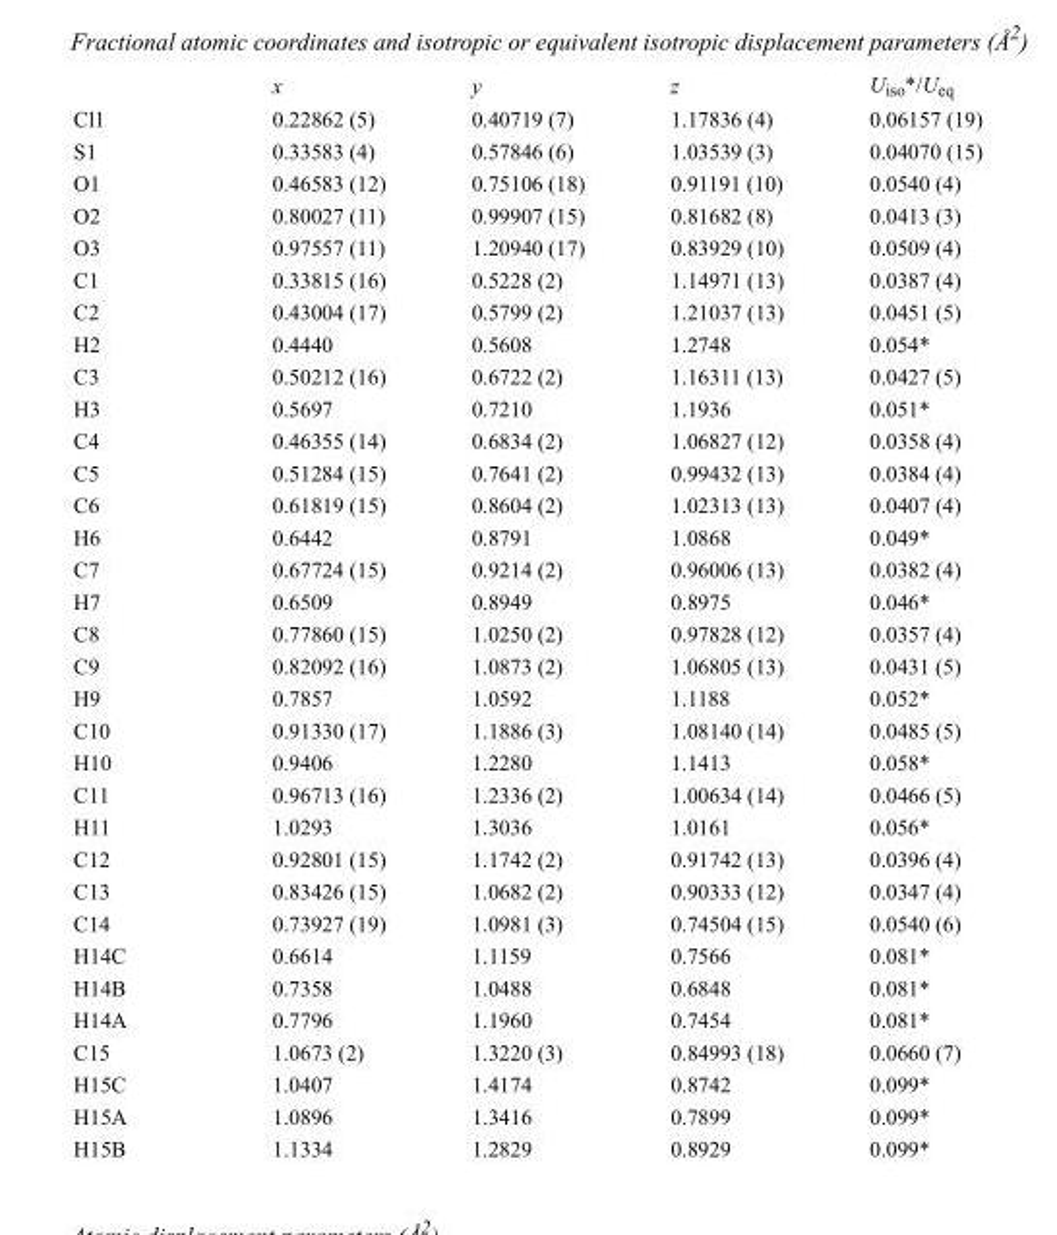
<table><thead><tr><td></td><td>x</td><td>y</td><td>z</td><td>U<sub>iso</sub>*/U<sub>eq</sub></td></tr></thead><tbody><tr><td>Cl1</td><td>0.22862 (5)</td><td>0.40719 (7)</td><td>1.17836 (4)</td><td>0.06157 (19)</td></tr><tr><td>S1</td><td>0.33583 (4)</td><td>0.57846 (6)</td><td>1.03539 (3)</td><td>0.04070 (15)</td></tr><tr><td>O1</td><td>0.46583 (12)</td><td>0.75106 (18)</td><td>0.91191 (10)</td><td>0.0540 (4)</td></tr><tr><td>O2</td><td>0.80027 (11)</td><td>0.99907 (15)</td><td>0.81682 (8)</td><td>0.0413 (3)</td></tr><tr><td>O3</td><td>0.97557 (11)</td><td>1.20940 (17)</td><td>0.83929 (10)</td><td>0.0509 (4)</td></tr><tr><td>C1</td><td>0.33815 (16)</td><td>0.5228 (2)</td><td>1.14971 (13)</td><td>0.0387 (4)</td></tr><tr><td>C2</td><td>0.43004 (17)</td><td>0.5799 (2)</td><td>1.21037 (13)</td><td>0.0451 (5)</td></tr><tr><td>H2</td><td>0.4440</td><td>0.5608</td><td>1.2748</td><td>0.054*</td></tr><tr><td>C3</td><td>0.50212 (16)</td><td>0.6722 (2)</td><td>1.16311 (13)</td><td>0.0427 (5)</td></tr><tr><td>H3</td><td>0.5697</td><td>0.7210</td><td>1.1936</td><td>0.051*</td></tr><tr><td>C4</td><td>0.46355 (14)</td><td>0.6834 (2)</td><td>1.06827 (12)</td><td>0.0358 (4)</td></tr><tr><td>C5</td><td>0.51284 (15)</td><td>0.7641 (2)</td><td>0.99432 (13)</td><td>0.0384 (4)</td></tr><tr><td>C6</td><td>0.61819 (15)</td><td>0.8604 (2)</td><td>1.02313 (13)</td><td>0.0407 (4)</td></tr><tr><td>H6</td><td>0.6442</td><td>0.8791</td><td>1.0868</td><td>0.049*</td></tr><tr><td>C7</td><td>0.67724 (15)</td><td>0.9214 (2)</td><td>0.96006 (13)</td><td>0.0382 (4)</td></tr><tr><td>H7</td><td>0.6509</td><td>0.8949</td><td>0.8975</td><td>0.046*</td></tr><tr><td>C8</td><td>0.77860 (15)</td><td>1.0250 (2)</td><td>0.97828 (12)</td><td>0.0357 (4)</td></tr><tr><td>C9</td><td>0.82092 (16)</td><td>1.0873 (2)</td><td>1.06805 (13)</td><td>0.0431 (5)</td></tr><tr><td>H9</td><td>0.7857</td><td>1.0592</td><td>1.1188</td><td>0.052*</td></tr><tr><td>C10</td><td>0.91330 (17)</td><td>1.1886 (3)</td><td>1.08140 (14)</td><td>0.0485 (5)</td></tr><tr><td>H10</td><td>0.9406</td><td>1.2280</td><td>1.1413</td><td>0.058*</td></tr><tr><td>C11</td><td>0.96713 (16)</td><td>1.2336 (2)</td><td>1.00634 (14)</td><td>0.0466 (5)</td></tr><tr><td>H11</td><td>1.0293</td><td>1.3036</td><td>1.0161</td><td>0.056*</td></tr><tr><td>C12</td><td>0.92801 (15)</td><td>1.1742 (2)</td><td>0.91742 (13)</td><td>0.0396 (4)</td></tr><tr><td>C13</td><td>0.83426 (15)</td><td>1.0682 (2)</td><td>0.90333 (12)</td><td>0.0347 (4)</td></tr><tr><td>C14</td><td>0.73927 (19)</td><td>1.0981 (3)</td><td>0.74504 (15)</td><td>0.0540 (6)</td></tr><tr><td>H14C</td><td>0.6614</td><td>1.1159</td><td>0.7566</td><td>0.081*</td></tr><tr><td>H14B</td><td>0.7358</td><td>1.0488</td><td>0.6848</td><td>0.081*</td></tr><tr><td>H14A</td><td>0.7796</td><td>1.1960</td><td>0.7454</td><td>0.081*</td></tr><tr><td>C15</td><td>1.0673 (2)</td><td>1.3220 (3)</td><td>0.84993 (18)</td><td>0.0660 (7)</td></tr><tr><td>H15C</td><td>1.0407</td><td>1.4174</td><td>0.8742</td><td>0.099*</td></tr><tr><td>H15A</td><td>1.0896</td><td>1.3416</td><td>0.7899</td><td>0.099*</td></tr><tr><td>H15B</td><td>1.1334</td><td>1.2829</td><td>0.8929</td><td>0.099*</td></tr></tbody></table>